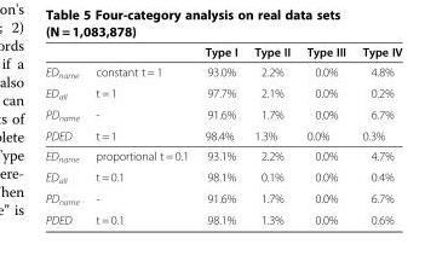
<table><thead><tr><td></td><td></td><td>Type I</td><td>Type II</td><td>Type III</td><td>Type IV</td></tr></thead><tbody><tr><td>ED<sub>name</sub></td><td>constant t = 1</td><td>93.0%</td><td>2.2%</td><td>0.0%</td><td>4.8%</td></tr><tr><td>ED<sub>all</sub></td><td>t = 1</td><td>97.7%</td><td>2.1%</td><td>0.0%</td><td>0.2%</td></tr><tr><td>PD<sub>name</sub></td><td>-</td><td>91.6%</td><td>1.7%</td><td>0.0%</td><td>6.7%</td></tr><tr><td>PDED</td><td>t = 1</td><td>98.4%</td><td>1.3%</td><td>0.0%</td><td>0.3%</td></tr><tr><td>ED<sub>name</sub></td><td>proportional t = 0.1</td><td>93.1%</td><td>2.2%</td><td>0.0%</td><td>4.7%</td></tr><tr><td>ED<sub>all</sub></td><td>t = 0.1</td><td>98.1%</td><td>0.1%</td><td>0.0%</td><td>0.4%</td></tr><tr><td>PD<sub>name</sub></td><td>-</td><td>91.6%</td><td>1.7%</td><td>0.0%</td><td>6.7%</td></tr><tr><td>PDED</td><td>t = 0.1</td><td>98.1%</td><td>1.3%</td><td>0.0%</td><td>0.6%</td></tr></tbody></table>